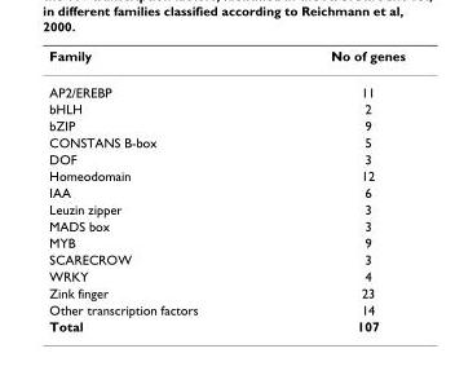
<table><thead><tr><td>Family</td><td>No of genes</td></tr></thead><tbody><tr><td>AP2/EREBP</td><td>11</td></tr><tr><td>bHLH</td><td>2</td></tr><tr><td>bZIP</td><td>9</td></tr><tr><td>CONSTANS B-box</td><td>5</td></tr><tr><td>DOF</td><td>3</td></tr><tr><td>Homeodomain</td><td>12</td></tr><tr><td>IAA</td><td>6</td></tr><tr><td>Leuzin zipper</td><td>3</td></tr><tr><td>MADS box</td><td>3</td></tr><tr><td>MYB</td><td>9</td></tr><tr><td>SCARECROW</td><td>3</td></tr><tr><td>WRKY</td><td>4</td></tr><tr><td>Zink finger</td><td>23</td></tr><tr><td>Other transcription factors</td><td>14</td></tr><tr><td>Total</td><td>107</td></tr></tbody></table>